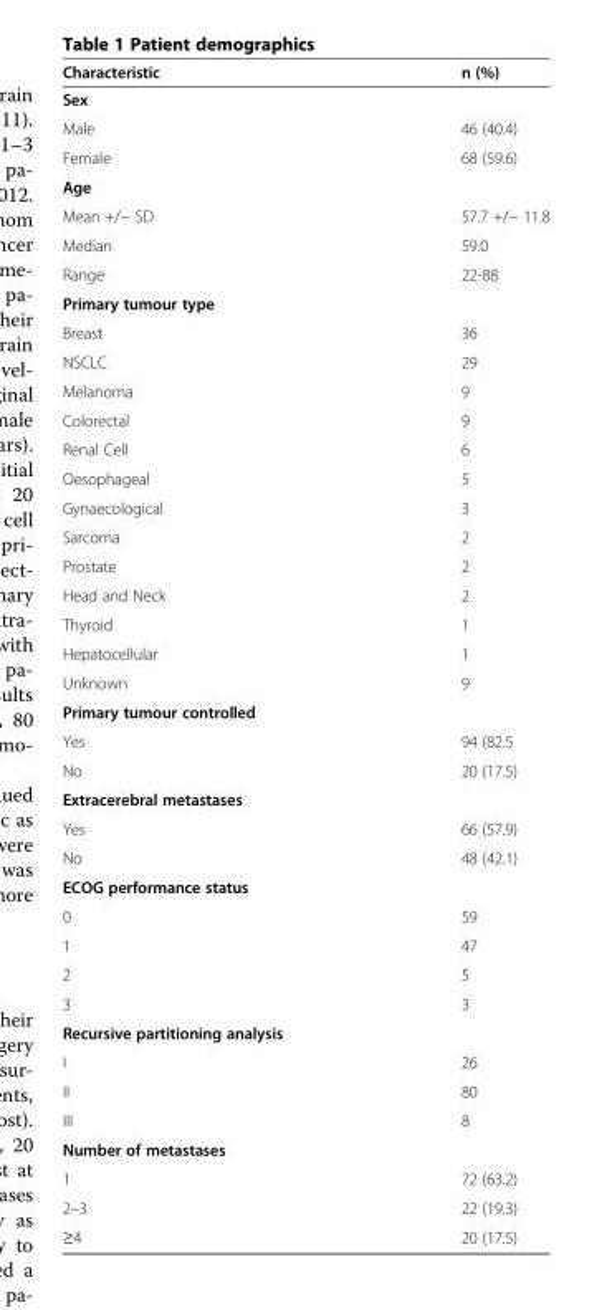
<table><thead><tr><td>Characteristic</td><td>n (%)</td></tr></thead><tbody><tr><td colspan="2">Sex</td></tr><tr><td>Male</td><td>46 (40.4)</td></tr><tr><td>Female</td><td>68 (59.6)</td></tr><tr><td colspan="2">Age</td></tr><tr><td>Mean +/− SD</td><td>57.7 +/− 11.8</td></tr><tr><td>Median</td><td>59.0</td></tr><tr><td>Range</td><td>22-88</td></tr><tr><td colspan="2">Primary tumour type</td></tr><tr><td>Breast</td><td>36</td></tr><tr><td>NSCLC</td><td>29</td></tr><tr><td>Melanoma</td><td>9</td></tr><tr><td>Colorectal</td><td>9</td></tr><tr><td>Renal Cell</td><td>6</td></tr><tr><td>Oesophageal</td><td>5</td></tr><tr><td>Gynaecological</td><td>3</td></tr><tr><td>Sarcoma</td><td>2</td></tr><tr><td>Prostate</td><td>2</td></tr><tr><td>Head and Neck</td><td>2</td></tr><tr><td>Thyroid</td><td>1</td></tr><tr><td>Hepatocellular</td><td>1</td></tr><tr><td>Unknown</td><td>9</td></tr><tr><td colspan="2">Primary tumour controlled</td></tr><tr><td>Yes</td><td>94 (82.5</td></tr><tr><td>No</td><td>20 (17.5)</td></tr><tr><td colspan="2">Extracerebral metastases</td></tr><tr><td>Yes</td><td>66 (57.9)</td></tr><tr><td>No</td><td>48 (42.1)</td></tr><tr><td colspan="2">ECOG performance status</td></tr><tr><td>0</td><td>59</td></tr><tr><td>1</td><td>47</td></tr><tr><td>2</td><td>5</td></tr><tr><td>3</td><td>3</td></tr><tr><td colspan="2">Recursive partitioning analysis</td></tr><tr><td>I</td><td>26</td></tr><tr><td>II</td><td>80</td></tr><tr><td>III</td><td>8</td></tr><tr><td colspan="2">Number of metastases</td></tr><tr><td>1</td><td>72 (63.2)</td></tr><tr><td>2–3</td><td>22 (19.3)</td></tr><tr><td>≥4</td><td>20 (17.5)</td></tr></tbody></table>